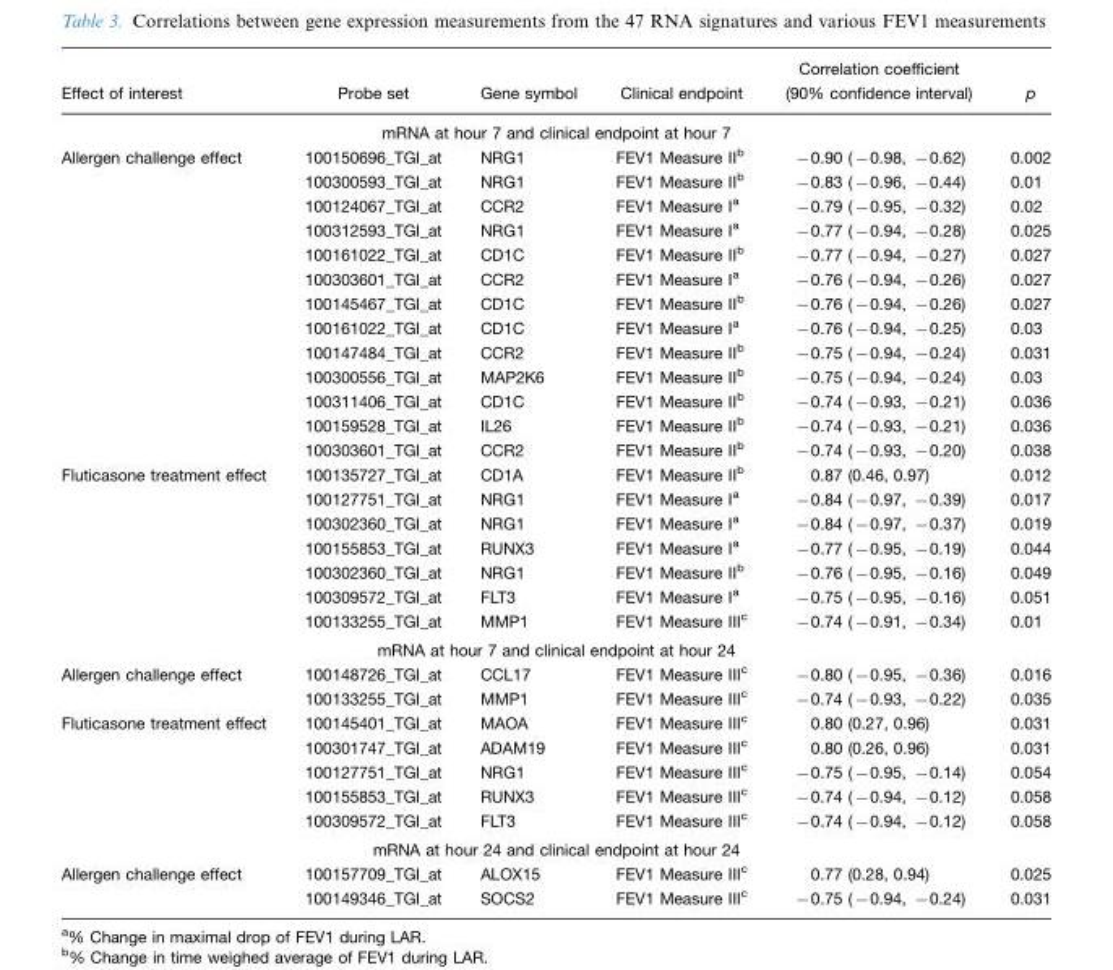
<table><thead><tr><td>Effect of interest</td><td>Probe set</td><td>Gene symbol</td><td>Clinical endpoint</td><td>Correlation coefficient (90% confidence interval)</td><td>p</td></tr></thead><tbody><tr><td colspan="6">mRNA at hour 7 and clinical endpoint at hour 7</td></tr><tr><td rowspan="13">Allergen challenge effect</td><td>100150696_TGI_at</td><td>NRG1</td><td>FEV1 Measure II<sup>b</sup></td><td>−0.90 (−0.98, −0.62)</td><td>0.002</td></tr><tr><td>100300593_TGI_at</td><td>NRG1</td><td>FEV1 Measure II<sup>b</sup></td><td>−0.83 (−0.96, −0.44)</td><td>0.01</td></tr><tr><td>100124067_TGI_at</td><td>CCR2</td><td>FEV1 Measure I<sup>a</sup></td><td>−0.79 (−0.95, −0.32)</td><td>0.02</td></tr><tr><td>100312593_TGI_at</td><td>NRG1</td><td>FEV1 Measure I<sup>a</sup></td><td>−0.77 (−0.94, −0.28)</td><td>0.025</td></tr><tr><td>100161022_TGI_at</td><td>CD1C</td><td>FEV1 Measure II<sup>b</sup></td><td>−0.77 (−0.94, −0.27)</td><td>0.027</td></tr><tr><td>100303601_TGI_at</td><td>CCR2</td><td>FEV1 Measure I<sup>a</sup></td><td>−0.76 (−0.94, −0.26)</td><td>0.027</td></tr><tr><td>100145467_TGI_at</td><td>CD1C</td><td>FEV1 Measure II<sup>b</sup></td><td>−0.76 (−0.94, −0.26)</td><td>0.027</td></tr><tr><td>100161022_TGI_at</td><td>CD1C</td><td>FEV1 Measure I<sup>a</sup></td><td>−0.76 (−0.94, −0.25)</td><td>0.03</td></tr><tr><td>100147484_TGI_at</td><td>CCR2</td><td>FEV1 Measure II<sup>b</sup></td><td>−0.75 (−0.94, −0.24)</td><td>0.031</td></tr><tr><td>100300556_TGI_at</td><td>MAP2K6</td><td>FEV1 Measure II<sup>b</sup></td><td>−0.75 (−0.94, −0.24)</td><td>0.03</td></tr><tr><td>100311406_TGI_at</td><td>CD1C</td><td>FEV1 Measure II<sup>b</sup></td><td>−0.74 (−0.93, −0.21)</td><td>0.036</td></tr><tr><td>100159528_TGI_at</td><td>IL26</td><td>FEV1 Measure II<sup>b</sup></td><td>−0.74 (−0.93, −0.21)</td><td>0.036</td></tr><tr><td>100303601_TGI_at</td><td>CCR2</td><td>FEV1 Measure II<sup>b</sup></td><td>−0.74 (−0.93, −0.20)</td><td>0.038</td></tr><tr><td rowspan="7">Fluticasone treatment effect</td><td>100135727_TGI_at</td><td>CD1A</td><td>FEV1 Measure II<sup>b</sup></td><td>0.87 (0.46, 0.97)</td><td>0.012</td></tr><tr><td>100127751_TGI_at</td><td>NRG1</td><td>FEV1 Measure I<sup>a</sup></td><td>−0.84 (−0.97, −0.39)</td><td>0.017</td></tr><tr><td>100302360_TGI_at</td><td>NRG1</td><td>FEV1 Measure I<sup>a</sup></td><td>−0.84 (−0.97, −0.37)</td><td>0.019</td></tr><tr><td>100155853_TGI_at</td><td>RUNX3</td><td>FEV1 Measure I<sup>a</sup></td><td>−0.77 (−0.95, −0.19)</td><td>0.044</td></tr><tr><td>100302360_TGI_at</td><td>NRG1</td><td>FEV1 Measure II<sup>b</sup></td><td>−0.76 (−0.95, −0.16)</td><td>0.049</td></tr><tr><td>100309572_TGI_at</td><td>FLT3</td><td>FEV1 Measure I<sup>a</sup></td><td>−0.75 (−0.95, −0.16)</td><td>0.051</td></tr><tr><td>100133255_TGI_at</td><td>MMP1</td><td>FEV1 Measure III<sup>c</sup></td><td>−0.74 (−0.91, −0.34)</td><td>0.01</td></tr><tr><td colspan="6">mRNA at hour 7 and clinical endpoint at hour 24</td></tr><tr><td rowspan="2">Allergen challenge effect</td><td>100148726_TGI_at</td><td>CCL17</td><td>FEV1 Measure III<sup>c</sup></td><td>−0.80 (−0.95, −0.36)</td><td>0.016</td></tr><tr><td>100133255_TGI_at</td><td>MMP1</td><td>FEV1 Measure III<sup>c</sup></td><td>−0.74 (−0.93, −0.22)</td><td>0.035</td></tr><tr><td rowspan="5">Fluticasone treatment effect</td><td>100145401_TGI_at</td><td>MAOA</td><td>FEV1 Measure III<sup>c</sup></td><td>0.80 (0.27, 0.96)</td><td>0.031</td></tr><tr><td>100301747_TGI_at</td><td>ADAM19</td><td>FEV1 Measure III<sup>c</sup></td><td>0.80 (0.26, 0.96)</td><td>0.031</td></tr><tr><td>100127751_TGI_at</td><td>NRG1</td><td>FEV1 Measure III<sup>c</sup></td><td>−0.75 (−0.95, −0.14)</td><td>0.054</td></tr><tr><td>100155853_TGI_at</td><td>RUNX3</td><td>FEV1 Measure III<sup>c</sup></td><td>−0.74 (−0.94, −0.12)</td><td>0.058</td></tr><tr><td>100309572_TGI_at</td><td>FLT3</td><td>FEV1 Measure III<sup>c</sup></td><td>−0.74 (−0.94, −0.12)</td><td>0.058</td></tr><tr><td colspan="6">mRNA at hour 24 and clinical endpoint at hour 24</td></tr><tr><td rowspan="2">Allergen challenge effect</td><td>100157709_TGI_at</td><td>ALOX15</td><td>FEV1 Measure III<sup>c</sup></td><td>0.77 (0.28, 0.94)</td><td>0.025</td></tr><tr><td>100149346_TGI_at</td><td>SOCS2</td><td>FEV1 Measure III<sup>c</sup></td><td>−0.75 (−0.94, −0.24)</td><td>0.031</td></tr></tbody></table>